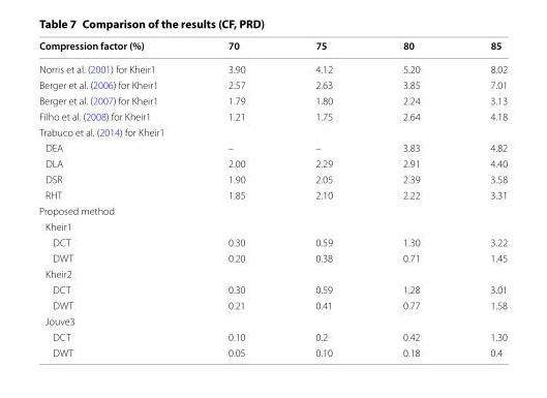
<table><thead><tr><td>Compression factor (%)</td><td>70</td><td>75</td><td>80</td><td>85</td></tr></thead><tbody><tr><td>Norris et al. (2001) for Kheir1</td><td>3.90</td><td>4.12</td><td>5.20</td><td>8.02</td></tr><tr><td>Berger et al. (2006) for Kheir1</td><td>2.57</td><td>2.63</td><td>3.85</td><td>7.01</td></tr><tr><td>Berger et al. (2007) for Kheir1</td><td>1.79</td><td>1.80</td><td>2.24</td><td>3.13</td></tr><tr><td>Filho et al. (2008) for Kheir1</td><td>1.21</td><td>1.75</td><td>2.64</td><td>4.18</td></tr><tr><td colspan="5">Trabuco et al. (2014) for Kheir1</td></tr><tr><td>DEA</td><td>–</td><td>–</td><td>3.83</td><td>4.82</td></tr><tr><td>DLA</td><td>2.00</td><td>2.29</td><td>2.91</td><td>4.40</td></tr><tr><td>DSR</td><td>1.90</td><td>2.05</td><td>2.39</td><td>3.58</td></tr><tr><td>RHT</td><td>1.85</td><td>2.10</td><td>2.22</td><td>3.31</td></tr><tr><td colspan="5">Proposed method</td></tr><tr><td colspan="5">Kheir1</td></tr><tr><td>DCT</td><td>0.30</td><td>0.59</td><td>1.30</td><td>3.22</td></tr><tr><td>DWT</td><td>0.20</td><td>0.38</td><td>0.71</td><td>1.45</td></tr><tr><td colspan="5">Kheir2</td></tr><tr><td>DCT</td><td>0.30</td><td>0.59</td><td>1.28</td><td>3.01</td></tr><tr><td>DWT</td><td>0.21</td><td>0.41</td><td>0.77</td><td>1.58</td></tr><tr><td colspan="5">Jouve3</td></tr><tr><td>DCT</td><td>0.10</td><td>0.2</td><td>0.42</td><td>1.30</td></tr><tr><td>DWT</td><td>0.05</td><td>0.10</td><td>0.18</td><td>0.4</td></tr></tbody></table>